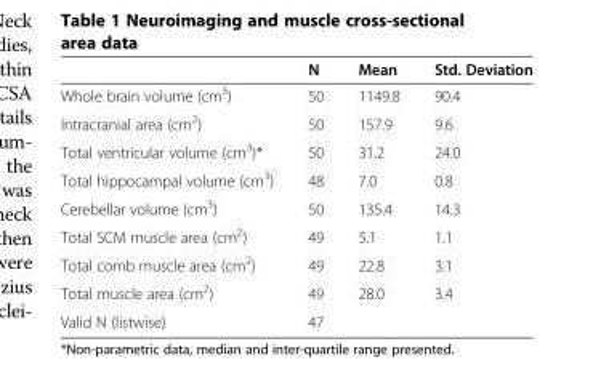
<table><thead><tr><td></td><td>N</td><td>Mean</td><td>Std. Deviation</td></tr></thead><tbody><tr><td>Whole brain volume (cm<sup>3</sup>)</td><td>50</td><td>1149.8</td><td>90.4</td></tr><tr><td>Intracranial area (cm<sup>2</sup>)</td><td>50</td><td>157.9</td><td>9.6</td></tr><tr><td>Total ventricular volume (cm<sup>3</sup>)*</td><td>50</td><td>31.2</td><td>24.0</td></tr><tr><td>Total hippocampal volume (cm<sup>3</sup>)</td><td>48</td><td>7.0</td><td>0.8</td></tr><tr><td>Cerebellar volume (cm<sup>3</sup>)</td><td>50</td><td>135.4</td><td>14.3</td></tr><tr><td>Total SCM muscle area (cm<sup>2</sup>)</td><td>49</td><td>5.1</td><td>1.1</td></tr><tr><td>Total comb muscle area (cm<sup>2</sup>)</td><td>49</td><td>22.8</td><td>3.1</td></tr><tr><td>Total muscle area (cm<sup>2</sup>)</td><td>49</td><td>28.0</td><td>3.4</td></tr><tr><td>Valid N (listwise)</td><td>47</td><td></td><td></td></tr></tbody></table>